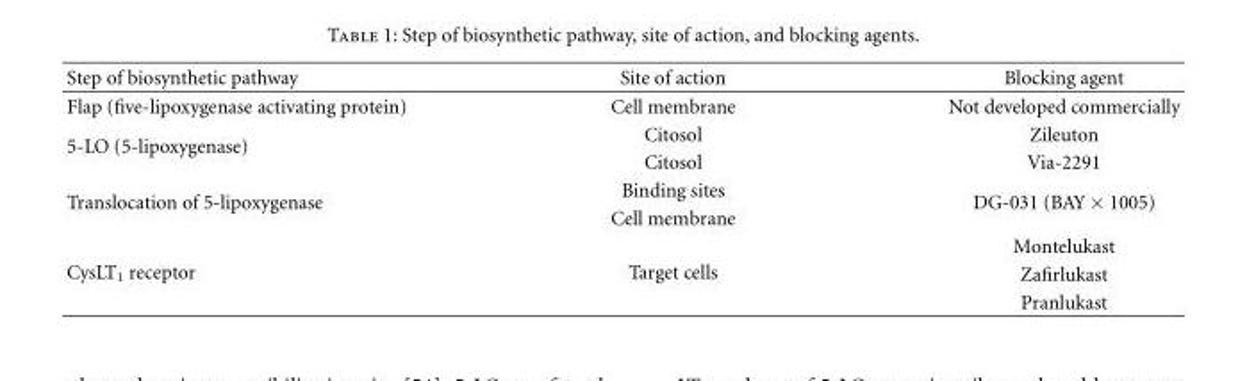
<table><thead><tr><td>Step of biosynthetic pathway</td><td>Site of action</td><td>Blocking agent</td></tr></thead><tbody><tr><td>Flap (five-lipoxygenase activating protein)</td><td>Cell membrane</td><td>Not developed commercially</td></tr><tr><td rowspan="2">5-LO (5-lipoxygenase)</td><td>Citosol</td><td>Zileuton</td></tr><tr><td>Citosol</td><td>Via-2291</td></tr><tr><td rowspan="2">Translocation of 5-lipoxygenase</td><td>Binding sites</td><td rowspan="2">DG-031 (BAY × 1005)</td></tr><tr><td>Cell membrane</td></tr><tr><td rowspan="3">CysLT<sub>1</sub> receptor</td><td rowspan="3">Target cells</td><td>Montelukast</td></tr><tr><td>Zafirlukast</td></tr><tr><td>Pranlukast</td></tr></tbody></table>